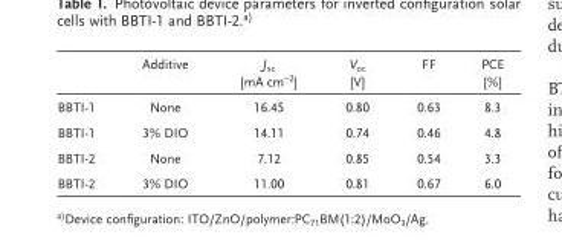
<table><thead><tr><td></td><td>Additive</td><td>J <sub>sc</sub> [mA cm <sup>−2</sup> ]</td><td>V <sub>oc</sub> [V]</td><td>FF</td><td>PCE [%]</td></tr></thead><tbody><tr><td>BBTI-1</td><td>None</td><td>16.45</td><td>0.80</td><td>0.63</td><td>8.3</td></tr><tr><td>BBTI-1</td><td>3% DIO</td><td>14.11</td><td>0.74</td><td>0.46</td><td>4.8</td></tr><tr><td>BBTI-2</td><td>None</td><td>7.12</td><td>0.85</td><td>0.54</td><td>3.3</td></tr><tr><td>BBTI-2</td><td>3% DIO</td><td>11.00</td><td>0.81</td><td>0.67</td><td>6.0</td></tr></tbody></table>